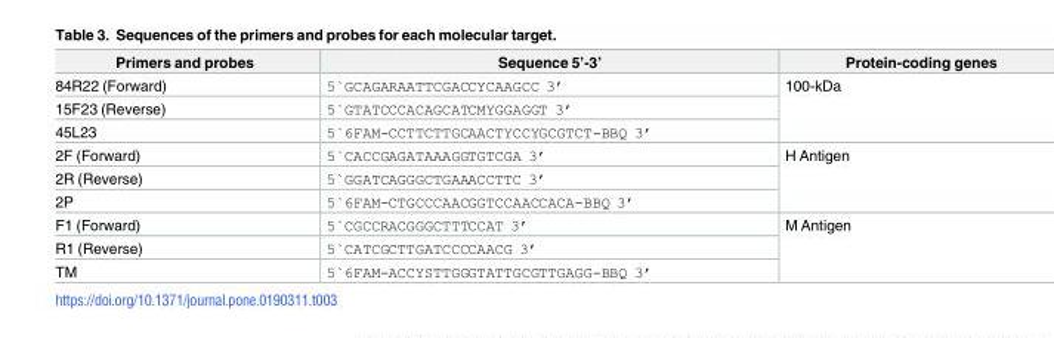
<table><thead><tr><td>Primers and probes</td><td>Sequence 5’-3’</td><td>Protein-coding genes</td></tr></thead><tbody><tr><td>84R22 (Forward)</td><td>5`GCAGARAATTCGACCYCAAGCC 3’</td><td rowspan="3">100-kDa</td></tr><tr><td>15F23 (Reverse)</td><td>5`GTATCCCACAGCATCMYGGAGGT 3’</td></tr><tr><td>45L23</td><td>5`6FAM-CCTTCTTGCAACTYCCYGCGTCT-BBQ 3’</td></tr><tr><td>2F (Forward)</td><td>5`CACCGAGATAAAGGTGTCGA 3’</td><td rowspan="3">H Antigen</td></tr><tr><td>2R (Reverse)</td><td>5`GGATCAGGGCTGAAACCTTC 3’</td></tr><tr><td>2P</td><td>5`6FAM-CTGCCCAACGGTCCAACCACA-BBQ 3’</td></tr><tr><td>F1 (Forward)</td><td>5`CGCCRACGGGCTTTCCAT 3’</td><td rowspan="3">M Antigen</td></tr><tr><td>R1 (Reverse)</td><td>5`CATCGCTTGATCCCCAACG 3’</td></tr><tr><td>TM</td><td>5`6FAM-ACCYSTTGGGTATTGCGTTGAGG-BBQ 3’</td></tr></tbody></table>